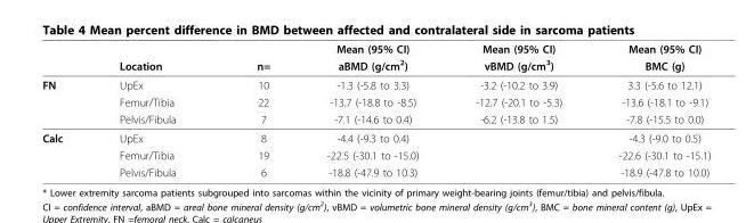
<table><thead><tr><td rowspan="2"></td><td rowspan="2">Location</td><td rowspan="2">n=</td><td rowspan="2">Mean (95% CI) aBMD (g/cm<sup>2</sup>)</td><td rowspan="2">Mean (95% CI) vBMD (g/cm<sup>3</sup>)</td><td rowspan="2">Mean (95% CI) BMC (g)</td></tr><tr></tr></thead><tbody><tr><td rowspan="3">FN</td><td>UpEx</td><td>10</td><td>-1.3 (-5.8 to 3.3)</td><td>-3.2 (-10.2 to 3.9)</td><td>3.3 (-5.6 to 12.1)</td></tr><tr><td>Femur/Tibia</td><td>22</td><td>-13.7 (-18.8 to -8.5)</td><td>-12.7 (-20.1 to -5.3)</td><td>-13.6 (-18.1 to -9.1)</td></tr><tr><td>Pelvis/Fibula</td><td>7</td><td>-7.1 (-14.6 to 0.4)</td><td>-6.2 (-13.8 to 1.5)</td><td>-7.8 (-15.5 to 0.0)</td></tr><tr><td rowspan="3">Calc</td><td>UpEx</td><td>8</td><td>-4.4 (-9.3 to 0.4)</td><td></td><td>-4.3 (-9.0 to 0.5)</td></tr><tr><td>Femur/Tibia</td><td>19</td><td>-22.5 (-30.1 to -15.0)</td><td></td><td>-22.6 (-30.1 to -15.1)</td></tr><tr><td>Pelvis/Fibula</td><td>6</td><td>-18.8 (-47.9 to 10.3)</td><td></td><td>-18.9 (-47.8 to 10.0)</td></tr></tbody></table>